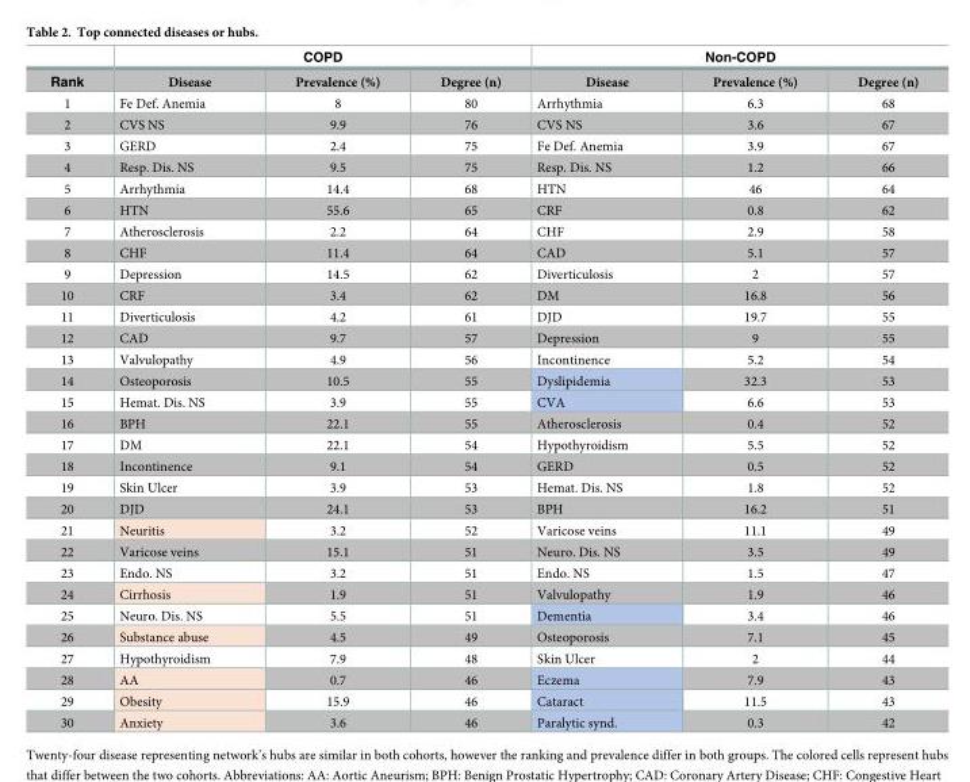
<table><thead><tr><td rowspan="2">Rank</td><td colspan="3">COPD</td><td colspan="3">Non-COPD</td></tr><tr><td>Disease</td><td>Prevalence (%)</td><td>Degree (n)</td><td>Disease</td><td>Prevalence (%)</td><td>Degree (n)</td></tr></thead><tbody><tr><td>1</td><td>Fe Def. Anemia</td><td>8</td><td>80</td><td>Arrhythmia</td><td>6.3</td><td>68</td></tr><tr><td>2</td><td>CVS NS</td><td>9.9</td><td>76</td><td>CVS NS</td><td>3.6</td><td>67</td></tr><tr><td>3</td><td>GERD</td><td>2.4</td><td>75</td><td>Fe Def. Anemia</td><td>3.9</td><td>67</td></tr><tr><td>4</td><td>Resp. Dis. NS</td><td>9.5</td><td>75</td><td>Resp. Dis. NS</td><td>1.2</td><td>66</td></tr><tr><td>5</td><td>Arrhythmia</td><td>14.4</td><td>68</td><td>HTN</td><td>46</td><td>64</td></tr><tr><td>6</td><td>HTN</td><td>55.6</td><td>65</td><td>CRF</td><td>0.8</td><td>62</td></tr><tr><td>7</td><td>Atherosclerosis</td><td>2.2</td><td>64</td><td>CHF</td><td>2.9</td><td>58</td></tr><tr><td>8</td><td>CHF</td><td>11.4</td><td>64</td><td>CAD</td><td>5.1</td><td>57</td></tr><tr><td>9</td><td>Depression</td><td>14.5</td><td>62</td><td>Diverticulosis</td><td>2</td><td>57</td></tr><tr><td>10</td><td>CRF</td><td>3.4</td><td>62</td><td>DM</td><td>16.8</td><td>56</td></tr><tr><td>11</td><td>Diverticulosis</td><td>4.2</td><td>61</td><td>DJD</td><td>19.7</td><td>55</td></tr><tr><td>12</td><td>CAD</td><td>9.7</td><td>57</td><td>Depression</td><td>9</td><td>55</td></tr><tr><td>13</td><td>Valvulopathy</td><td>4.9</td><td>56</td><td>Incontinence</td><td>5.2</td><td>54</td></tr><tr><td>14</td><td>Osteoporosis</td><td>10.5</td><td>55</td><td>Dyslipidemia</td><td>32.3</td><td>53</td></tr><tr><td>15</td><td>Hemat. Dis. NS</td><td>3.9</td><td>55</td><td>CVA</td><td>6.6</td><td>53</td></tr><tr><td>16</td><td>BPH</td><td>22.1</td><td>55</td><td>Atherosclerosis</td><td>0.4</td><td>52</td></tr><tr><td>17</td><td>DM</td><td>22.1</td><td>54</td><td>Hypothyroidism</td><td>5.5</td><td>52</td></tr><tr><td>18</td><td>Incontinence</td><td>9.1</td><td>54</td><td>GERD</td><td>0.5</td><td>52</td></tr><tr><td>19</td><td>Skin Ulcer</td><td>3.9</td><td>53</td><td>Hemat. Dis. NS</td><td>1.8</td><td>52</td></tr><tr><td>20</td><td>DJD</td><td>24.1</td><td>53</td><td>BPH</td><td>16.2</td><td>51</td></tr><tr><td>21</td><td>Neuritis</td><td>3.2</td><td>52</td><td>Varicose veins</td><td>11.1</td><td>49</td></tr><tr><td>22</td><td>Varicose veins</td><td>15.1</td><td>51</td><td>Neuro. Dis. NS</td><td>3.5</td><td>49</td></tr><tr><td>23</td><td>Endo. NS</td><td>3.2</td><td>51</td><td>Endo. NS</td><td>1.5</td><td>47</td></tr><tr><td>24</td><td>Cirrhosis</td><td>1.9</td><td>51</td><td>Valvulopathy</td><td>1.9</td><td>46</td></tr><tr><td>25</td><td>Neuro. Dis. NS</td><td>5.5</td><td>51</td><td>Dementia</td><td>3.4</td><td>46</td></tr><tr><td>26</td><td>Substance abuse</td><td>4.5</td><td>49</td><td>Osteoporosis</td><td>7.1</td><td>45</td></tr><tr><td>27</td><td>Hypothyroidism</td><td>7.9</td><td>48</td><td>Skin Ulcer</td><td>2</td><td>44</td></tr><tr><td>28</td><td>AA</td><td>0.7</td><td>46</td><td>Eczema</td><td>7.9</td><td>43</td></tr><tr><td>29</td><td>Obesity</td><td>15.9</td><td>46</td><td>Cataract</td><td>11.5</td><td>43</td></tr><tr><td>30</td><td>Anxiety</td><td>3.6</td><td>46</td><td>Paralytic synd.</td><td>0.3</td><td>42</td></tr></tbody></table>